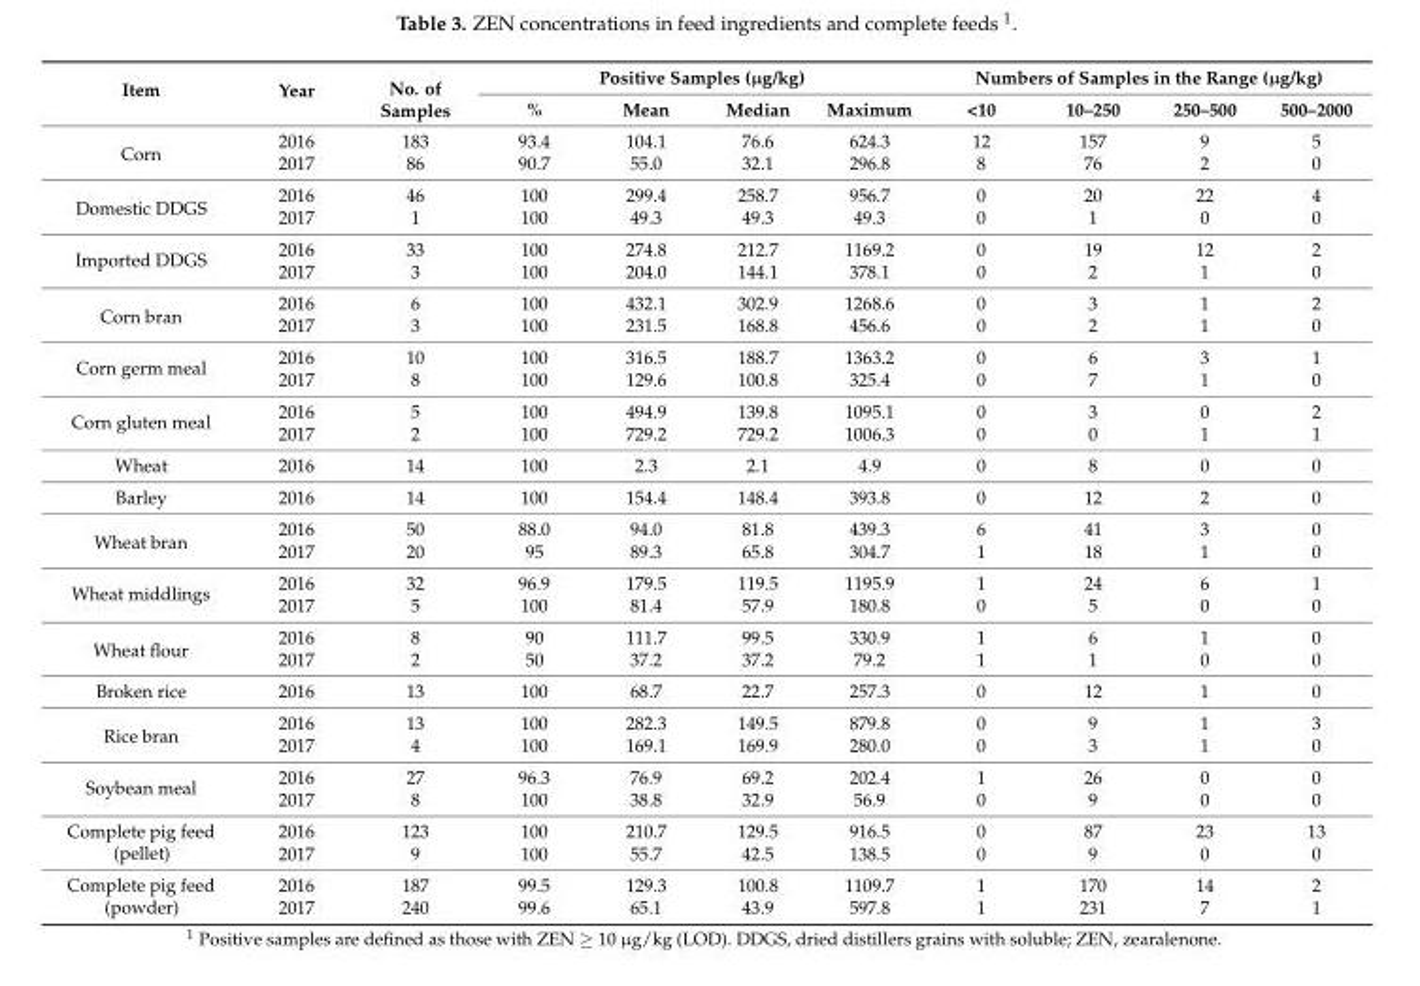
<table><thead><tr><td rowspan="2">Item</td><td rowspan="2">Year</td><td rowspan="2">No. of Samples</td><td colspan="4">Positive Samples (µg/kg)</td><td colspan="4">Numbers of Samples in the Range (µg/kg)</td></tr><tr><td>%</td><td>Mean</td><td>Median</td><td>Maximum</td><td>&lt;10</td><td>10–250</td><td>250–500</td><td>500–2000</td></tr></thead><tbody><tr><td rowspan="2">Corn</td><td>2016</td><td>183</td><td>93.4</td><td>104.1</td><td>76.6</td><td>624.3</td><td>12</td><td>157</td><td>9</td><td>5</td></tr><tr><td>2017</td><td>86</td><td>90.7</td><td>55.0</td><td>32.1</td><td>296.8</td><td>8</td><td>76</td><td>2</td><td>0</td></tr><tr><td rowspan="2">Domestic DDGS</td><td>2016</td><td>46</td><td>100</td><td>299.4</td><td>258.7</td><td>956.7</td><td>0</td><td>20</td><td>22</td><td>4</td></tr><tr><td>2017</td><td>1</td><td>100</td><td>49.3</td><td>49.3</td><td>49.3</td><td>0</td><td>1</td><td>0</td><td>0</td></tr><tr><td rowspan="2">Imported DDGS</td><td>2016</td><td>33</td><td>100</td><td>274.8</td><td>212.7</td><td>1169.2</td><td>0</td><td>19</td><td>12</td><td>2</td></tr><tr><td>2017</td><td>3</td><td>100</td><td>204.0</td><td>144.1</td><td>378.1</td><td>0</td><td>2</td><td>1</td><td>0</td></tr><tr><td rowspan="2">Corn bran</td><td>2016</td><td>6</td><td>100</td><td>432.1</td><td>302.9</td><td>1268.6</td><td>0</td><td>3</td><td>1</td><td>2</td></tr><tr><td>2017</td><td>3</td><td>100</td><td>231.5</td><td>168.8</td><td>456.6</td><td>0</td><td>2</td><td>1</td><td>0</td></tr><tr><td rowspan="2">Corn germ meal</td><td>2016</td><td>10</td><td>100</td><td>316.5</td><td>188.7</td><td>1363.2</td><td>0</td><td>6</td><td>3</td><td>1</td></tr><tr><td>2017</td><td>8</td><td>100</td><td>129.6</td><td>100.8</td><td>325.4</td><td>0</td><td>7</td><td>1</td><td>0</td></tr><tr><td rowspan="2">Corn gluten meal</td><td>2016</td><td>5</td><td>100</td><td>494.9</td><td>139.8</td><td>1095.1</td><td>0</td><td>3</td><td>0</td><td>2</td></tr><tr><td>2017</td><td>2</td><td>100</td><td>729.2</td><td>729.2</td><td>1006.3</td><td>0</td><td>0</td><td>1</td><td>1</td></tr><tr><td>Wheat</td><td>2016</td><td>14</td><td>100</td><td>2.3</td><td>2.1</td><td>4.9</td><td>0</td><td>8</td><td>0</td><td>0</td></tr><tr><td>Barley</td><td>2016</td><td>14</td><td>100</td><td>154.4</td><td>148.4</td><td>393.8</td><td>0</td><td>12</td><td>2</td><td>0</td></tr><tr><td rowspan="2">Wheat bran</td><td>2016</td><td>50</td><td>88.0</td><td>94.0</td><td>81.8</td><td>439.3</td><td>6</td><td>41</td><td>3</td><td>0</td></tr><tr><td>2017</td><td>20</td><td>95</td><td>89.3</td><td>65.8</td><td>304.7</td><td>1</td><td>18</td><td>1</td><td>0</td></tr><tr><td rowspan="2">Wheat middlings</td><td>2016</td><td>32</td><td>96.9</td><td>179.5</td><td>119.5</td><td>1195.9</td><td>1</td><td>24</td><td>6</td><td>1</td></tr><tr><td>2017</td><td>5</td><td>100</td><td>81.4</td><td>57.9</td><td>180.8</td><td>0</td><td>5</td><td>0</td><td>0</td></tr><tr><td rowspan="2">Wheat flour</td><td>2016</td><td>8</td><td>90</td><td>111.7</td><td>99.5</td><td>330.9</td><td>1</td><td>6</td><td>1</td><td>0</td></tr><tr><td>2017</td><td>2</td><td>50</td><td>37.2</td><td>37.2</td><td>79.2</td><td>1</td><td>1</td><td>0</td><td>0</td></tr><tr><td>Broken rice</td><td>2016</td><td>13</td><td>100</td><td>68.7</td><td>22.7</td><td>257.3</td><td>0</td><td>12</td><td>1</td><td>0</td></tr><tr><td rowspan="2">Rice bran</td><td>2016</td><td>13</td><td>100</td><td>282.3</td><td>149.5</td><td>879.8</td><td>0</td><td>9</td><td>1</td><td>3</td></tr><tr><td>2017</td><td>4</td><td>100</td><td>169.1</td><td>169.9</td><td>280.0</td><td>0</td><td>3</td><td>1</td><td>0</td></tr><tr><td rowspan="2">Soybean meal</td><td>2016</td><td>27</td><td>96.3</td><td>76.9</td><td>69.2</td><td>202.4</td><td>1</td><td>26</td><td>0</td><td>0</td></tr><tr><td>2017</td><td>8</td><td>100</td><td>38.8</td><td>32.9</td><td>56.9</td><td>0</td><td>9</td><td>0</td><td>0</td></tr><tr><td rowspan="2">Complete pig feed (pellet)</td><td>2016</td><td>123</td><td>100</td><td>210.7</td><td>129.5</td><td>916.5</td><td>0</td><td>87</td><td>23</td><td>13</td></tr><tr><td>2017</td><td>9</td><td>100</td><td>55.7</td><td>42.5</td><td>138.5</td><td>0</td><td>9</td><td>0</td><td>0</td></tr><tr><td rowspan="2">Complete pig feed (powder)</td><td>2016</td><td>187</td><td>99.5</td><td>129.3</td><td>100.8</td><td>1109.7</td><td>1</td><td>170</td><td>14</td><td>2</td></tr><tr><td>2017</td><td>240</td><td>99.6</td><td>65.1</td><td>43.9</td><td>597.8</td><td>1</td><td>231</td><td>7</td><td>1</td></tr></tbody></table>